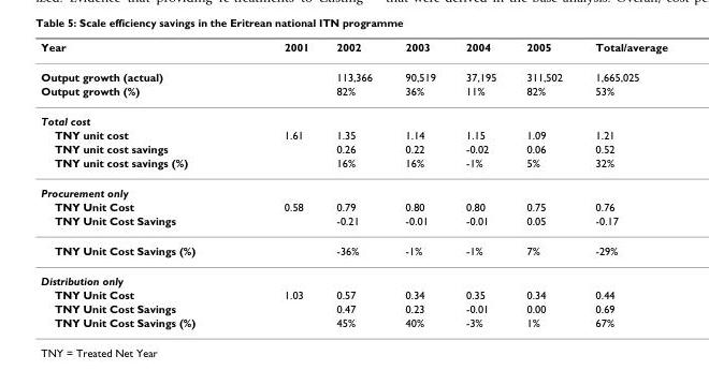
<table><thead><tr><td>Year</td><td>2001</td><td>2002</td><td>2003</td><td>2004</td><td>2005</td><td>Total/average</td></tr></thead><tbody><tr><td>Output growth (actual)</td><td></td><td>113,366</td><td>90,519</td><td>37,195</td><td>311,502</td><td>1,665,025</td></tr><tr><td>Output growth (%)</td><td></td><td>82%</td><td>36%</td><td>11%</td><td>82%</td><td>53%</td></tr><tr><td colspan="7">Total cost</td></tr><tr><td>TNY unit cost</td><td>1.61</td><td>1.35</td><td>1.14</td><td>1.15</td><td>1.09</td><td>1.21</td></tr><tr><td>TNY unit cost savings</td><td></td><td>0.26</td><td>0.22</td><td>-0.02</td><td>0.06</td><td>0.52</td></tr><tr><td>TNY unit cost savings (%)</td><td></td><td>16%</td><td>16%</td><td>-1%</td><td>5%</td><td>32%</td></tr><tr><td colspan="7">Procurement only</td></tr><tr><td>TNY Unit Cost</td><td>0.58</td><td>0.79</td><td>0.80</td><td>0.80</td><td>0.75</td><td>0.76</td></tr><tr><td>TNY Unit Cost Savings</td><td></td><td>-0.21</td><td>-0.01</td><td>-0.01</td><td>0.05</td><td>-0.17</td></tr><tr><td>TNY Unit Cost Savings (%)</td><td></td><td>-36%</td><td>-1%</td><td>-1%</td><td>7%</td><td>-29%</td></tr><tr><td colspan="7">Distribution only</td></tr><tr><td>TNY Unit Cost</td><td>1.03</td><td>0.57</td><td>0.34</td><td>0.35</td><td>0.34</td><td>0.44</td></tr><tr><td>TNY Unit Cost Savings</td><td></td><td>0.47</td><td>0.23</td><td>-0.01</td><td>0.00</td><td>0.69</td></tr><tr><td>TNY Unit Cost Savings (%)</td><td></td><td>45%</td><td>40%</td><td>-3%</td><td>1%</td><td>67%</td></tr></tbody></table>